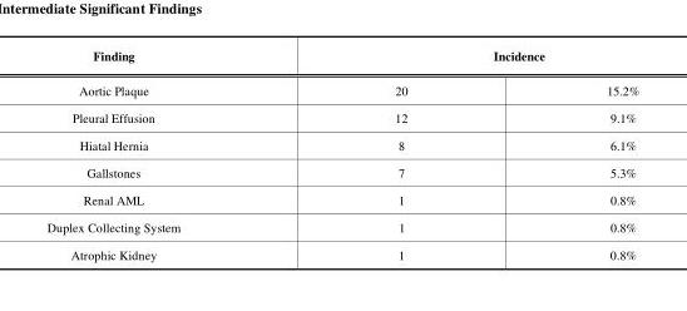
<table><tbody><tr><td>Finding</td><td colspan="2">Incidence</td></tr><tr><td>Aortic Plaque</td><td>20</td><td>15.2%</td></tr><tr><td>Pleural Effusion</td><td>12</td><td>9.1%</td></tr><tr><td>Hiatal Hernia</td><td>8</td><td>6.1%</td></tr><tr><td>Gallstones</td><td>7</td><td>5.3%</td></tr><tr><td>Renal AML</td><td>1</td><td>0.8%</td></tr><tr><td>Duplex Collecting System</td><td>1</td><td>0.8%</td></tr><tr><td>Atrophic Kidney</td><td>1</td><td>0.8%</td></tr></tbody></table>